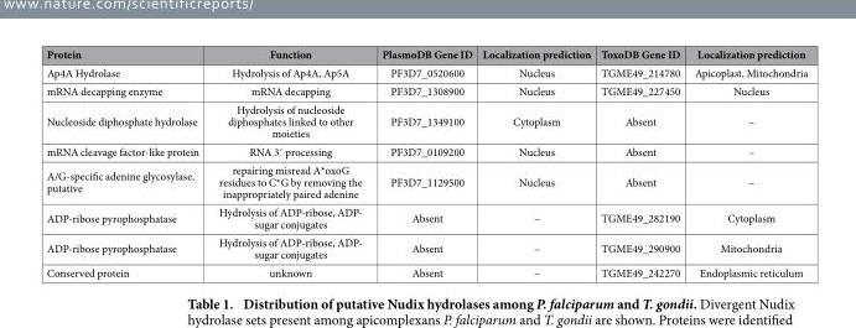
<table><thead><tr><td>Protein</td><td>Function</td><td>PlasmoDB Gene ID</td><td>Localization prediction</td><td>ToxoDB Gene ID</td><td>Localization prediction</td></tr></thead><tbody><tr><td>Ap4A Hydrolase</td><td>Hydrolysis of Ap4A, Ap5A</td><td>PF3D7_0520600</td><td>Nucleus</td><td>TGME49_214780</td><td>Apicoplast, Mitochondria</td></tr><tr><td>mRNA decapping enzyme</td><td>mRNA decapping</td><td>PF3D7_1308900</td><td>Nucleus</td><td>TGME49_227450</td><td>Nucleus</td></tr><tr><td>Nucleoside diphosphate hydrolase</td><td>Hydrolysis of nucleoside diphosphates linked to other moieties</td><td>PF3D7_1349100</td><td>Cytoplasm</td><td>Absent</td><td>–</td></tr><tr><td>mRNA cleavage factor-like protein</td><td>RNA 3′ processing</td><td>PF3D7_0109200</td><td>Nucleus</td><td>Absent</td><td>–</td></tr><tr><td>A/G-specific adenine glycosylase, putative</td><td>repairing misread A*oxoG residues to C*G by removing the inappropriately paired adenine</td><td>PF3D7_1129500</td><td>Nucleus</td><td>Absent</td><td>–</td></tr><tr><td>ADP-ribose pyrophosphatase</td><td>Hydrolysis of ADP-ribose, ADP- sugar conjugates</td><td>Absent</td><td>–</td><td>TGME49_282190</td><td>Cytoplasm</td></tr><tr><td>ADP-ribose pyrophosphatase</td><td>Hydrolysis of ADP-ribose, ADP- sugar conjugates</td><td>Absent</td><td>–</td><td>TGME49_290900</td><td>Mitochondria</td></tr><tr><td>Conserved protein</td><td>unknown</td><td>Absent</td><td>–</td><td>TGME49_242270</td><td>Endoplasmic reticulum</td></tr></tbody></table>